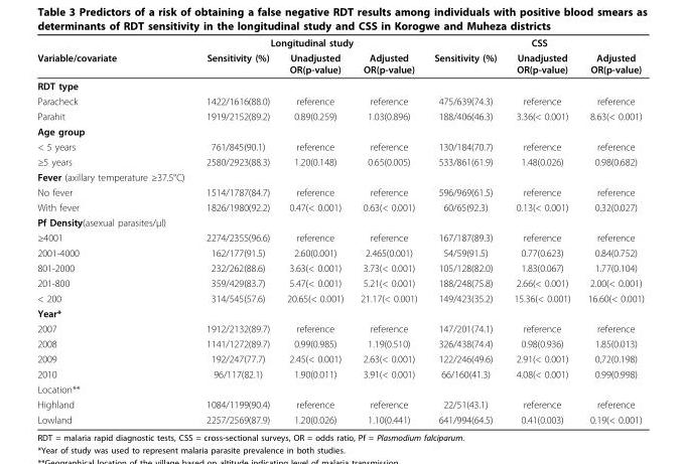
<table><thead><tr><td rowspan="2">Variable/covariate</td><td colspan="3">Longitudinal study</td><td colspan="3">CSS</td></tr><tr><td>Sensitivity (%)</td><td>Unadjusted OR(p-value)</td><td>Adjusted OR(p-value)</td><td>Sensitivity (%)</td><td>Unadjusted OR(p-value)</td><td>Adjusted OR(p-value)</td></tr></thead><tbody><tr><td colspan="7">RDT type</td></tr><tr><td>Paracheck</td><td>1422/1616(88.0)</td><td>reference</td><td>reference</td><td>475/639(74.3)</td><td>reference</td><td>reference</td></tr><tr><td>Parahit</td><td>1919/2152(89.2)</td><td>0.89(0.259)</td><td>1.03(0.896)</td><td>188/406(46.3)</td><td>3.36(&lt; 0.001)</td><td>8.63(&lt; 0.001)</td></tr><tr><td colspan="7">Age group</td></tr><tr><td>&lt; 5 years</td><td>761/845(90.1)</td><td>reference</td><td>reference</td><td>130/184(70.7)</td><td>reference</td><td>reference</td></tr><tr><td>≥5 years</td><td>2580/2923(88.3)</td><td>1.20(0.148)</td><td>0.65(0.005)</td><td>533/861(61.9)</td><td>1.48(0.026)</td><td>0.98(0.682)</td></tr><tr><td colspan="7">Fever (axillary temperature ≥37.5°C)</td></tr><tr><td>No fever</td><td>1514/1787(84.7)</td><td>reference</td><td>reference</td><td>596/969(61.5)</td><td>reference</td><td>reference</td></tr><tr><td>With fever</td><td>1826/1980(92.2)</td><td>0.47(&lt; 0.001)</td><td>0.63(&lt; 0.001)</td><td>60/65(92.3)</td><td>0.13(&lt; 0.001)</td><td>0.32(0.027)</td></tr><tr><td colspan="7">Pf Density(asexual parasites/μl)</td></tr><tr><td>≥4001</td><td>2274/2355(96.6)</td><td>reference</td><td>reference</td><td>167/187(89.3)</td><td>reference</td><td>reference</td></tr><tr><td>2001-4000</td><td>162/177(91.5)</td><td>2.60(0.001)</td><td>2.465(0.001)</td><td>54/59(91.5)</td><td>0.77(0.623)</td><td>0.84(0.752)</td></tr><tr><td>801-2000</td><td>232/262(88.6)</td><td>3.63(&lt; 0.001)</td><td>3.73(&lt; 0.001)</td><td>105/128(82.0)</td><td>1.83(0.067)</td><td>1.77(0.104)</td></tr><tr><td>201-800</td><td>359/429(83.7)</td><td>5.47(&lt; 0.001)</td><td>5.21(&lt; 0.001)</td><td>188/248(75.8)</td><td>2.66(&lt; 0.001)</td><td>2.00(&lt; 0.001)</td></tr><tr><td>&lt; 200</td><td>314/545(57.6)</td><td>20.65(&lt; 0.001)</td><td>21.17(&lt; 0.001)</td><td>149/423(35.2)</td><td>15.36(&lt; 0.001)</td><td>16.60(&lt; 0.001)</td></tr><tr><td colspan="7">Year*</td></tr><tr><td>2007</td><td>1912/2132(89.7)</td><td>reference</td><td>reference</td><td>147/201(74.1)</td><td>reference</td><td>reference</td></tr><tr><td>2008</td><td>1141/1272(89.7)</td><td>0.99(0.985)</td><td>1.19(0.510)</td><td>326/438(74.4)</td><td>0.98(0.936)</td><td>1.85(0.013)</td></tr><tr><td>2009</td><td>192/247(77.7)</td><td>2.45(&lt; 0.001)</td><td>2.63(&lt; 0.001)</td><td>122/246(49.6)</td><td>2.91(&lt; 0.001)</td><td>0,72(0.198)</td></tr><tr><td>2010</td><td>96/117(82.1)</td><td>1.90(0.011)</td><td>3.91(&lt; 0.001)</td><td>66/160(41.3)</td><td>4.08(&lt; 0.001)</td><td>0.99(0.998)</td></tr><tr><td colspan="7">Location**</td></tr><tr><td>Highland</td><td>1084/1199(90.4)</td><td>reference</td><td>reference</td><td>22/51(43.1)</td><td>reference</td><td>reference</td></tr><tr><td>Lowland</td><td>2257/2569(87.9)</td><td>1.20(0.026)</td><td>1.10(0.441)</td><td>641/994(64.5)</td><td>0.41(0.003)</td><td>0.19(&lt; 0.001)</td></tr></tbody></table>